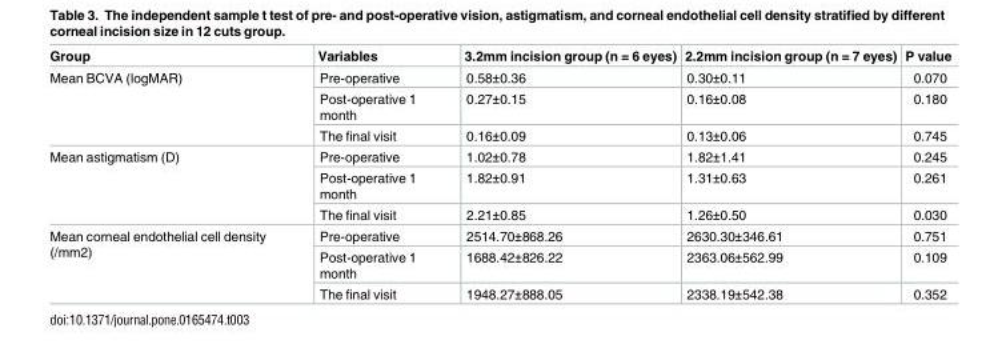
<table><thead><tr><td>Group</td><td>Variables</td><td>3.2mm incision group (n = 6 eyes)</td><td>2.2mm incision group (n = 7 eyes)</td><td>P value</td></tr></thead><tbody><tr><td rowspan="3">Mean BCVA (logMAR)</td><td>Pre-operative</td><td>0.58±0.36</td><td>0.30±0.11</td><td>0.070</td></tr><tr><td>Post-operative 1 month</td><td>0.27±0.15</td><td>0.16±0.08</td><td>0.180</td></tr><tr><td>The final visit</td><td>0.16±0.09</td><td>0.13±0.06</td><td>0.745</td></tr><tr><td rowspan="3">Mean astigmatism (D)</td><td>Pre-operative</td><td>1.02±0.78</td><td>1.82±1.41</td><td>0.245</td></tr><tr><td>Post-operative 1 month</td><td>1.82±0.91</td><td>1.31±0.63</td><td>0.261</td></tr><tr><td>The final visit</td><td>2.21±0.85</td><td>1.26±0.50</td><td>0.030</td></tr><tr><td rowspan="3">Mean corneal endothelial cell density (/mm2)</td><td>Pre-operative</td><td>2514.70±868.26</td><td>2630.30±346.61</td><td>0.751</td></tr><tr><td>Post-operative 1 month</td><td>1688.42±826.22</td><td>2363.06±562.99</td><td>0.109</td></tr><tr><td>The final visit</td><td>1948.27±888.05</td><td>2338.19±542.38</td><td>0.352</td></tr></tbody></table>